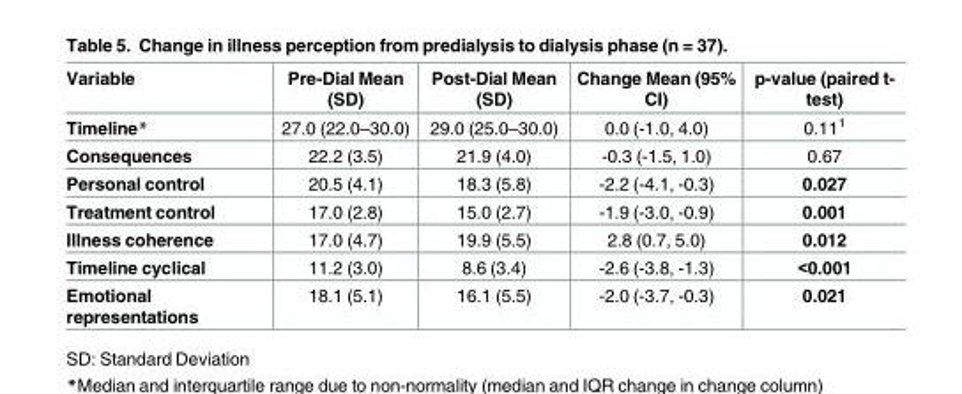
<table><thead><tr><td>Variable</td><td>Pre-Dial Mean (SD)</td><td>Post-Dial Mean (SD)</td><td>Change Mean (95% CI)</td><td>p-value (paired t- test)</td></tr></thead><tbody><tr><td>Timeline*</td><td>27.0 (22.0–30.0)</td><td>29.0 (25.0–30.0)</td><td>0.0 (-1.0, 4.0)</td><td>0.11<sup>1</sup></td></tr><tr><td>Consequences</td><td>22.2 (3.5)</td><td>21.9 (4.0)</td><td>-0.3 (-1.5, 1.0)</td><td>0.67</td></tr><tr><td>Personal control</td><td>20.5 (4.1)</td><td>18.3 (5.8)</td><td>-2.2 (-4.1, -0.3)</td><td>0.027</td></tr><tr><td>Treatment control</td><td>17.0 (2.8)</td><td>15.0 (2.7)</td><td>-1.9 (-3.0, -0.9)</td><td>0.001</td></tr><tr><td>Illness coherence</td><td>17.0 (4.7)</td><td>19.9 (5.5)</td><td>2.8 (0.7, 5.0)</td><td>0.012</td></tr><tr><td>Timeline cyclical</td><td>11.2 (3.0)</td><td>8.6 (3.4)</td><td>-2.6 (-3.8, -1.3)</td><td>&lt;0.001</td></tr><tr><td>Emotional representations</td><td>18.1 (5.1)</td><td>16.1 (5.5)</td><td>-2.0 (-3.7, -0.3)</td><td>0.021</td></tr></tbody></table>